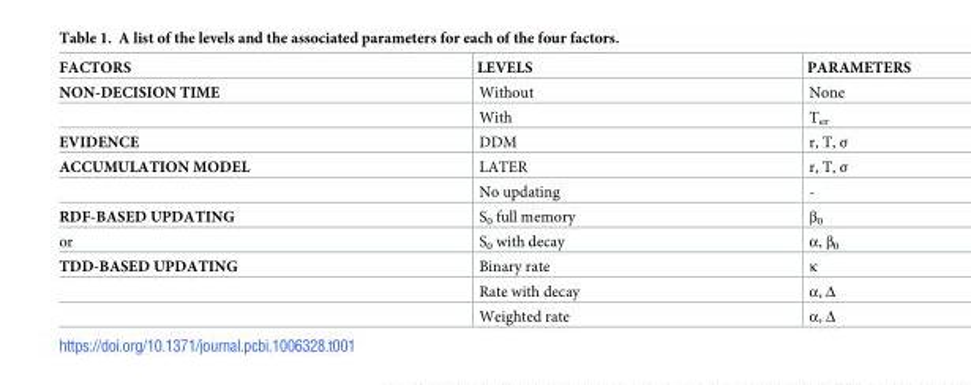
<table><thead><tr><td>FACTORS</td><td>LEVELS</td><td>PARAMETERS</td></tr></thead><tbody><tr><td rowspan="2">NON-DECISION TIME</td><td>Without</td><td>None</td></tr><tr><td>With</td><td>T<sub>er</sub></td></tr><tr><td>EVIDENCE</td><td>DDM</td><td>r, T, σ</td></tr><tr><td rowspan="2">ACCUMULATION MODEL</td><td>LATER</td><td>r, T, σ</td></tr><tr><td>No updating</td><td>-</td></tr><tr><td>RDF-BASED UPDATING</td><td>S<sub>0</sub> full memory</td><td>β<sub>0</sub></td></tr><tr><td>or</td><td>S<sub>0</sub> with decay</td><td>α, β<sub>0</sub></td></tr><tr><td rowspan="3">TDD-BASED UPDATING</td><td>Binary rate</td><td>κ</td></tr><tr><td>Rate with decay</td><td>α, Δ</td></tr><tr><td>Weighted rate</td><td>α, Δ</td></tr></tbody></table>